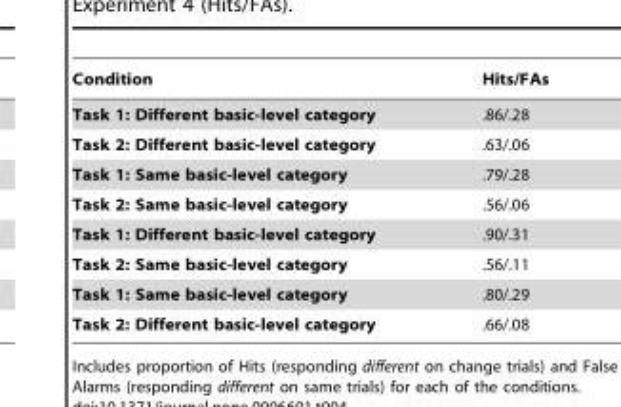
<table><thead><tr><td>Condition</td><td>Hits/FAs</td></tr></thead><tbody><tr><td>Task 1: Different basic-level category</td><td>.86/.28</td></tr><tr><td>Task 2: Different basic-level category</td><td>.63/.06</td></tr><tr><td>Task 1: Same basic-level category</td><td>.79/.28</td></tr><tr><td>Task 2: Same basic-level category</td><td>.56/.06</td></tr><tr><td>Task 1: Different basic-level category</td><td>.90/.31</td></tr><tr><td>Task 2: Same basic-level category</td><td>.56/.11</td></tr><tr><td>Task 1: Same basic-level category</td><td>.80/.29</td></tr><tr><td>Task 2: Different basic-level category</td><td>.66/.08</td></tr></tbody></table>